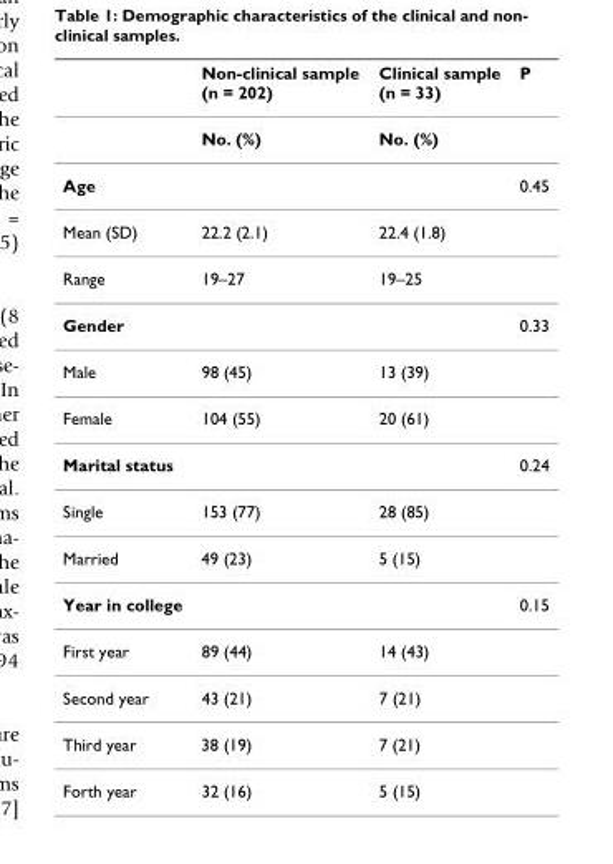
<table><thead><tr><td></td><td>Non-clinical sample (n = 202)</td><td>Clinical sample (n = 33)</td><td>P</td></tr></thead><tbody><tr><td></td><td>No. (%)</td><td>No. (%)</td><td></td></tr><tr><td>Age</td><td></td><td></td><td>0.45</td></tr><tr><td>Mean (SD)</td><td>22.2 (2.1)</td><td>22.4 (1.8)</td><td></td></tr><tr><td>Range</td><td>19–27</td><td>19–25</td><td></td></tr><tr><td>Gender</td><td></td><td></td><td>0.33</td></tr><tr><td>Male</td><td>98 (45)</td><td>13 (39)</td><td></td></tr><tr><td>Female</td><td>104 (55)</td><td>20 (61)</td><td></td></tr><tr><td>Marital status</td><td></td><td></td><td>0.24</td></tr><tr><td>Single</td><td>153 (77)</td><td>28 (85)</td><td></td></tr><tr><td>Married</td><td>49 (23)</td><td>5 (15)</td><td></td></tr><tr><td>Year in college</td><td></td><td></td><td>0.15</td></tr><tr><td>First year</td><td>89 (44)</td><td>14 (43)</td><td></td></tr><tr><td>Second year</td><td>43 (21)</td><td>7 (21)</td><td></td></tr><tr><td>Third year</td><td>38 (19)</td><td>7 (21)</td><td></td></tr><tr><td>Forth year</td><td>32 (16)</td><td>5 (15)</td><td></td></tr></tbody></table>